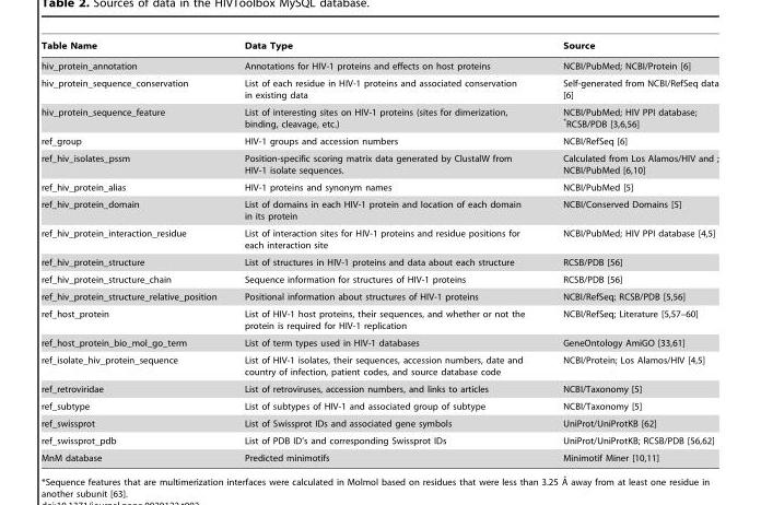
<table><thead><tr><td>Table Name</td><td>Data Type</td><td>Source</td></tr></thead><tbody><tr><td>hiv_protein_annotation</td><td>Annotations for HIV-1 proteins and effects on host proteins</td><td>NCBI/PubMed; NCBI/Protein [6]</td></tr><tr><td>hiv_protein_sequence_conservation</td><td>List of each residue in HIV-1 proteins and associated conservation in existing data</td><td>Self-generated from NCBI/RefSeq data [6]</td></tr><tr><td>hiv_protein_sequence_feature</td><td>List of interesting sites on HIV-1 proteins (sites for dimerization, binding, cleavage, etc.)</td><td>NCBI/PubMed; HIV PPI database; *RCSB/PDB [3,6,56]</td></tr><tr><td>ref_group</td><td>HIV-1 groups and accession numbers</td><td>NCBI/RefSeq [6]</td></tr><tr><td>ref_hiv_isolates_pssm</td><td>Position-specific scoring matrix data generated by ClustalW from HIV-1 isolate sequences.</td><td>Calculated from Los Alamos/HIV and ; NCBI/PubMed [6,10]</td></tr><tr><td>ref_hiv_protein_alias</td><td>HIV-1 proteins and synonym names</td><td>NCBI/PubMed [5]</td></tr><tr><td>ref_hiv_protein_domain</td><td>List of domains in each HIV-1 protein and location of each domain in its protein</td><td>NCBI/Conserved Domains [5]</td></tr><tr><td>ref_hiv_protein_interaction_residue</td><td>List of interaction sites for HIV-1 proteins and residue positions for each interaction site</td><td>NCBI/PubMed; HIV PPI database [4,5]</td></tr><tr><td>ref_hiv_protein_structure</td><td>List of structures in HIV-1 proteins and data about each structure</td><td>RCSB/PDB [56]</td></tr><tr><td>ref_hiv_protein_structure_chain</td><td>Sequence information for structures of HIV-1 proteins</td><td>RCSB/PDB [56]</td></tr><tr><td>ref_hiv_protein_structure_relative_position</td><td>Positional information about structures of HIV-1 proteins</td><td>NCBI/RefSeq; RCSB/PDB [5,56]</td></tr><tr><td>ref_host_protein</td><td>List of HIV-1 host proteins, their sequences, and whether or not the protein is required for HIV-1 replication</td><td>NCBI/RefSeq; Literature [5,57–60]</td></tr><tr><td>ref_host_protein_bio_mol_go_term</td><td>List of term types used in HIV-1 databases</td><td>GeneOntology AmiGO [33,61]</td></tr><tr><td>ref_isolate_hiv_protein_sequence</td><td>List of HIV-1 isolates, their sequences, accession numbers, date and country of infection, patient codes, and source database code</td><td>NCBI/Protein; Los Alamos/HIV [4,5]</td></tr><tr><td>ref_retroviridae</td><td>List of retroviruses, accession numbers, and links to articles</td><td>NCBI/Taxonomy [5]</td></tr><tr><td>ref_subtype</td><td>List of subtypes of HIV-1 and associated group of subtype</td><td>NCBI/Taxonomy [5]</td></tr><tr><td>ref_swissprot</td><td>List of Swissprot IDs and associated gene symbols</td><td>UniProt/UniProtKB [62]</td></tr><tr><td>ref_swissprot_pdb</td><td>List of PDB ID’s and corresponding Swissprot IDs</td><td>UniProt/UniProtKB; RCSB/PDB [56,62]</td></tr><tr><td>MnM database</td><td>Predicted minimotifs</td><td>Minimotif Miner [10,11]</td></tr></tbody></table>